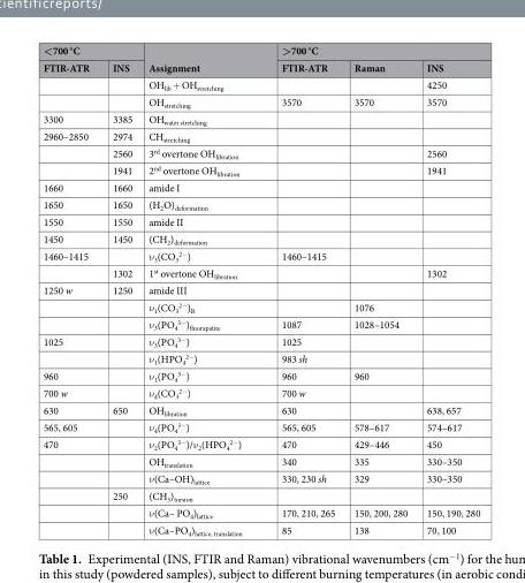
<table><thead><tr><td colspan="2">&lt;700 °C</td><td rowspan="2">Assignment</td><td colspan="3">&gt;700 °C</td></tr><tr><td>FTIR-ATR</td><td>INS</td><td>FTIR-ATR</td><td>Raman</td><td>INS</td></tr></thead><tbody><tr><td></td><td></td><td>OH<sub>lib</sub> + OH<sub>stretching</sub></td><td></td><td></td><td>4250</td></tr><tr><td></td><td></td><td>OH<sub>stretching</sub></td><td>3570</td><td>3570</td><td>3570</td></tr><tr><td>3300</td><td>3385</td><td>OH<sub>water stretching</sub></td><td></td><td></td><td></td></tr><tr><td rowspan="3">2960–2850</td><td>2974</td><td>CH<sub>stretching</sub></td><td></td><td></td><td></td></tr><tr><td>2560</td><td>3<sup>rd</sup> overtone OH<sub>libration</sub></td><td></td><td></td><td>2560</td></tr><tr><td>1941</td><td>2<sup>nd</sup> overtone OH<sub>libration</sub></td><td></td><td></td><td>1941</td></tr><tr><td>1660</td><td>1660</td><td>amide I</td><td></td><td></td><td></td></tr><tr><td>1650</td><td>1650</td><td>(H<sub>2</sub>O)<sub>deformation</sub></td><td></td><td></td><td></td></tr><tr><td>1550</td><td>1550</td><td>amide II</td><td></td><td></td><td></td></tr><tr><td>1450</td><td>1450</td><td>(CH<sub>2</sub>)<sub>deformation</sub></td><td></td><td></td><td></td></tr><tr><td rowspan="2">1460–1415</td><td></td><td>ν<sub>3</sub>(CO<sub>3</sub> <sup>2−</sup>)</td><td>1460–1415</td><td></td><td></td></tr><tr><td>1302</td><td>1<sup>st</sup> overtone OH<sub>libration</sub></td><td></td><td></td><td>1302</td></tr><tr><td rowspan="3">1250 w</td><td>1250</td><td>amide III</td><td></td><td></td><td></td></tr><tr><td></td><td>ν<sub>1</sub>(CO<sub>3</sub> <sup>2−</sup>)<sub>B</sub></td><td></td><td>1076</td><td></td></tr><tr><td></td><td>ν<sub>3</sub>(PO<sub>4</sub> <sup>3−</sup>)<sub>fluorapatite</sub></td><td>1087</td><td>1028–1054</td><td></td></tr><tr><td rowspan="2">1025</td><td></td><td>ν<sub>3</sub>(PO<sub>4</sub> <sup>3−</sup>)</td><td>1025</td><td></td><td></td></tr><tr><td></td><td>ν<sub>1</sub>(HPO<sub>4</sub> <sup>2−</sup>)</td><td>983 sh</td><td></td><td></td></tr><tr><td>960</td><td></td><td>ν<sub>1</sub>(PO<sub>4</sub> <sup>3−</sup>)</td><td>960</td><td>960</td><td></td></tr><tr><td>700 w</td><td></td><td>ν<sub>4</sub>(CO<sub>3</sub> <sup>2−</sup>)</td><td>700 w</td><td></td><td></td></tr><tr><td>630</td><td>650</td><td>OH<sub>libration</sub></td><td>630</td><td></td><td>638, 657</td></tr><tr><td>565, 605</td><td></td><td>ν<sub>4</sub>(PO<sub>4</sub> <sup>3−</sup>)</td><td>565, 605</td><td>578–617</td><td>574–617</td></tr><tr><td rowspan="6">470</td><td></td><td>ν<sub>2</sub>(PO<sub>4</sub> <sup>3−</sup>)/ν<sub>2</sub>(HPO<sub>4</sub> <sup>2−</sup>)</td><td>470</td><td>429–446</td><td>450</td></tr><tr><td></td><td>OH<sub>translation</sub></td><td>340</td><td>335</td><td>330–350</td></tr><tr><td></td><td>ν(Ca–OH)<sub>lattice</sub></td><td>330, 230 sh</td><td>329</td><td>330–350</td></tr><tr><td>250</td><td>(CH<sub>3</sub>)<sub>torsion</sub></td><td></td><td></td><td></td></tr><tr><td></td><td>ν(Ca– PO<sub>4</sub>)<sub>lattice</sub></td><td>170, 210, 265</td><td>150, 200, 280</td><td>150, 190, 280</td></tr><tr><td></td><td>ν(Ca–PO<sub>4</sub>)<sub>lattice, translation</sub></td><td>85</td><td>138</td><td>70, 100</td></tr></tbody></table>